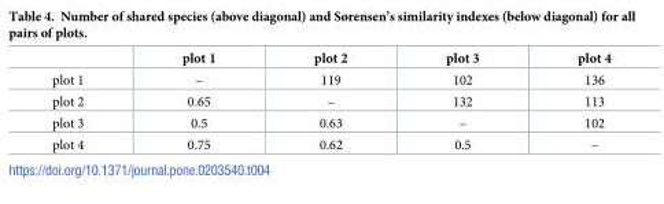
<table><thead><tr><td></td><td>plot 1</td><td>plot 2</td><td>plot 3</td><td>plot 4</td></tr></thead><tbody><tr><td>plot 1</td><td>–</td><td>119</td><td>102</td><td>136</td></tr><tr><td>plot 2</td><td>0.65</td><td>–</td><td>132</td><td>113</td></tr><tr><td>plot 3</td><td>0.5</td><td>0.63</td><td>–</td><td>102</td></tr><tr><td>plot 4</td><td>0.75</td><td>0.62</td><td>0.5</td><td>–</td></tr></tbody></table>